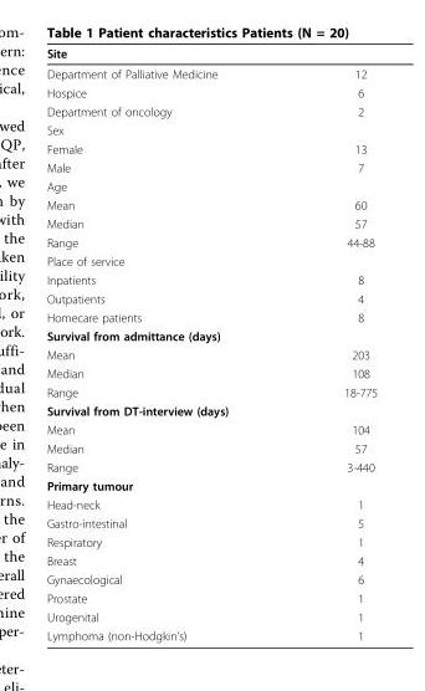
<table><thead><tr><td colspan="2">Site</td></tr><tr><td>Department of Palliative Medicine</td><td>12</td></tr></thead><tbody><tr><td>Hospice</td><td>6</td></tr><tr><td>Department of oncology</td><td>2</td></tr><tr><td colspan="2">Sex</td></tr><tr><td>Female</td><td>13</td></tr><tr><td>Male</td><td>7</td></tr><tr><td colspan="2">Age</td></tr><tr><td>Mean</td><td>60</td></tr><tr><td>Median</td><td>57</td></tr><tr><td>Range</td><td>44-88</td></tr><tr><td colspan="2">Place of service</td></tr><tr><td>Inpatients</td><td>8</td></tr><tr><td>Outpatients</td><td>4</td></tr><tr><td>Homecare patients</td><td>8</td></tr><tr><td colspan="2">Survival from admittance (days)</td></tr><tr><td>Mean</td><td>203</td></tr><tr><td>Median</td><td>108</td></tr><tr><td>Range</td><td>18-775</td></tr><tr><td colspan="2">Survival from DT-interview (days)</td></tr><tr><td>Mean</td><td>104</td></tr><tr><td>Median</td><td>57</td></tr><tr><td>Range</td><td>3-440</td></tr><tr><td colspan="2">Primary tumour</td></tr><tr><td>Head-neck</td><td>1</td></tr><tr><td>Gastro-intestinal</td><td>5</td></tr><tr><td>Respiratory</td><td>1</td></tr><tr><td>Breast</td><td>4</td></tr><tr><td>Gynaecological</td><td>6</td></tr><tr><td>Prostate</td><td>1</td></tr><tr><td>Urogenital</td><td>1</td></tr><tr><td>Lymphoma (non-Hodgkin’s)</td><td>1</td></tr></tbody></table>